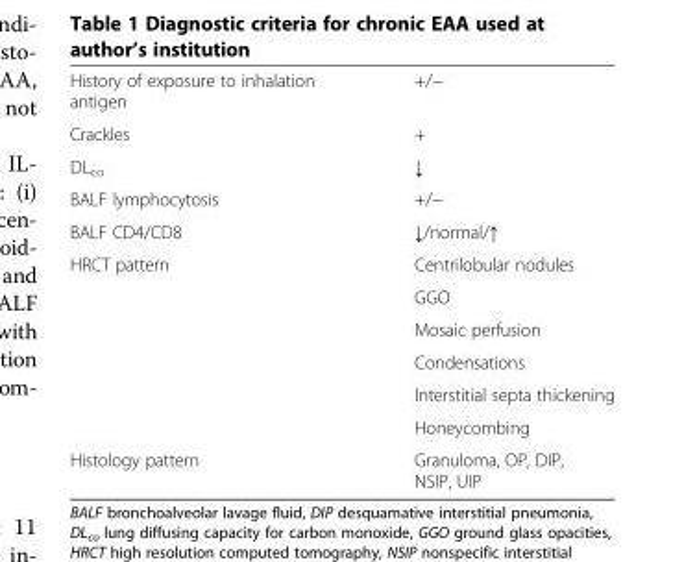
<table><tbody><tr><td>History of exposure to inhalation antigen</td><td>+/−</td></tr><tr><td>Crackles</td><td>+</td></tr><tr><td>DL<sub>co</sub></td><td>↓</td></tr><tr><td>BALF lymphocytosis</td><td>+/−</td></tr><tr><td>BALF CD4/CD8</td><td>↓/normal/↑</td></tr><tr><td rowspan="6">HRCT pattern</td><td>Centrilobular nodules</td></tr><tr><td>GGO</td></tr><tr><td>Mosaic perfusion</td></tr><tr><td>Condensations</td></tr><tr><td>Interstitial septa thickening</td></tr><tr><td>Honeycombing</td></tr><tr><td>Histology pattern</td><td>Granuloma, OP, DIP, NSIP, UIP</td></tr></tbody></table>